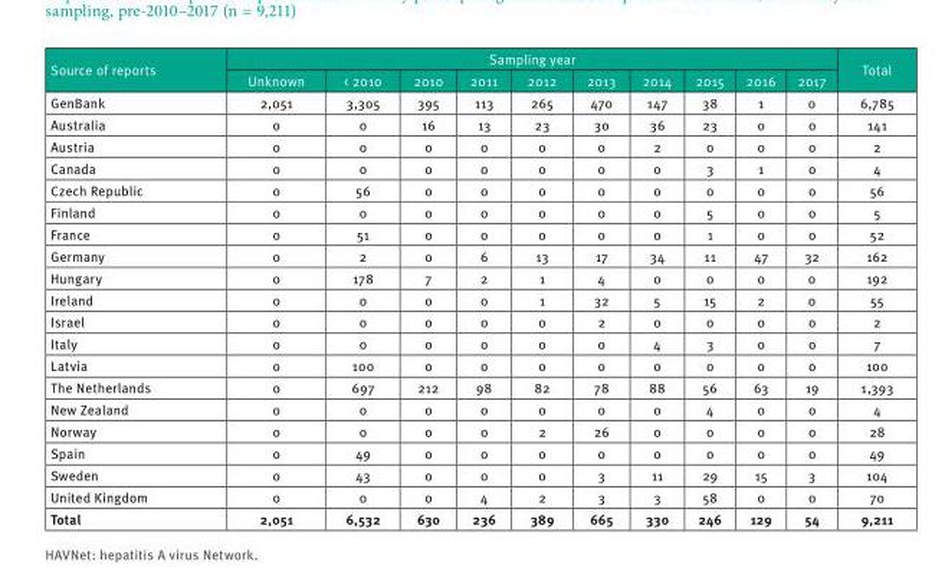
<table><thead><tr><td rowspan="2">Source of reports</td><td colspan="10">Sampling year</td><td rowspan="2">Total</td></tr><tr><td>Unknown</td><td>&lt; 2010</td><td>2010</td><td>2011</td><td>2012</td><td>2013</td><td>2014</td><td>2015</td><td>2016</td><td>2017</td></tr></thead><tbody><tr><td>GenBank</td><td>2,051</td><td>3,305</td><td>395</td><td>113</td><td>265</td><td>470</td><td>147</td><td>38</td><td>1</td><td>0</td><td>6,785</td></tr><tr><td>Australia</td><td>0</td><td>0</td><td>16</td><td>13</td><td>23</td><td>30</td><td>36</td><td>23</td><td>0</td><td>0</td><td>141</td></tr><tr><td>Austria</td><td>0</td><td>0</td><td>0</td><td>0</td><td>0</td><td>0</td><td>2</td><td>0</td><td>0</td><td>0</td><td>2</td></tr><tr><td>Canada</td><td>0</td><td>0</td><td>0</td><td>0</td><td>0</td><td>0</td><td>0</td><td>3</td><td>1</td><td>0</td><td>4</td></tr><tr><td>Czech Republic</td><td>0</td><td>56</td><td>0</td><td>0</td><td>0</td><td>0</td><td>0</td><td>0</td><td>0</td><td>0</td><td>56</td></tr><tr><td>Finland</td><td>0</td><td>0</td><td>0</td><td>0</td><td>0</td><td>0</td><td>0</td><td>5</td><td>0</td><td>0</td><td>5</td></tr><tr><td>France</td><td>0</td><td>51</td><td>0</td><td>0</td><td>0</td><td>0</td><td>0</td><td>1</td><td>0</td><td>0</td><td>52</td></tr><tr><td>Germany</td><td>0</td><td>2</td><td>0</td><td>6</td><td>13</td><td>17</td><td>34</td><td>11</td><td>47</td><td>32</td><td>162</td></tr><tr><td>Hungary</td><td>0</td><td>178</td><td>7</td><td>2</td><td>1</td><td>4</td><td>0</td><td>0</td><td>0</td><td>0</td><td>192</td></tr><tr><td>Ireland</td><td>0</td><td>0</td><td>0</td><td>0</td><td>1</td><td>32</td><td>5</td><td>15</td><td>2</td><td>0</td><td>55</td></tr><tr><td>Israel</td><td>0</td><td>0</td><td>0</td><td>0</td><td>0</td><td>2</td><td>0</td><td>0</td><td>0</td><td>0</td><td>2</td></tr><tr><td>Italy</td><td>0</td><td>0</td><td>0</td><td>0</td><td>0</td><td>0</td><td>4</td><td>3</td><td>0</td><td>0</td><td>7</td></tr><tr><td>Latvia</td><td>0</td><td>100</td><td>0</td><td>0</td><td>0</td><td>0</td><td>0</td><td>0</td><td>0</td><td>0</td><td>100</td></tr><tr><td>The Netherlands</td><td>0</td><td>697</td><td>212</td><td>98</td><td>82</td><td>78</td><td>88</td><td>56</td><td>63</td><td>19</td><td>1,393</td></tr><tr><td>New Zealand</td><td>0</td><td>0</td><td>0</td><td>0</td><td>0</td><td>0</td><td>0</td><td>4</td><td>0</td><td>0</td><td>4</td></tr><tr><td>Norway</td><td>0</td><td>0</td><td>0</td><td>0</td><td>2</td><td>26</td><td>0</td><td>0</td><td>0</td><td>0</td><td>28</td></tr><tr><td>Spain</td><td>0</td><td>49</td><td>0</td><td>0</td><td>0</td><td>0</td><td>0</td><td>0</td><td>0</td><td>0</td><td>49</td></tr><tr><td>Sweden</td><td>0</td><td>43</td><td>0</td><td>0</td><td>0</td><td>3</td><td>11</td><td>29</td><td>15</td><td>3</td><td>104</td></tr><tr><td>United Kingdom</td><td>0</td><td>0</td><td>0</td><td>4</td><td>2</td><td>3</td><td>3</td><td>58</td><td>0</td><td>0</td><td>70</td></tr><tr><td>Total</td><td>2,051</td><td>6,532</td><td>630</td><td>236</td><td>389</td><td>665</td><td>330</td><td>246</td><td>129</td><td>54</td><td>9,211</td></tr></tbody></table>